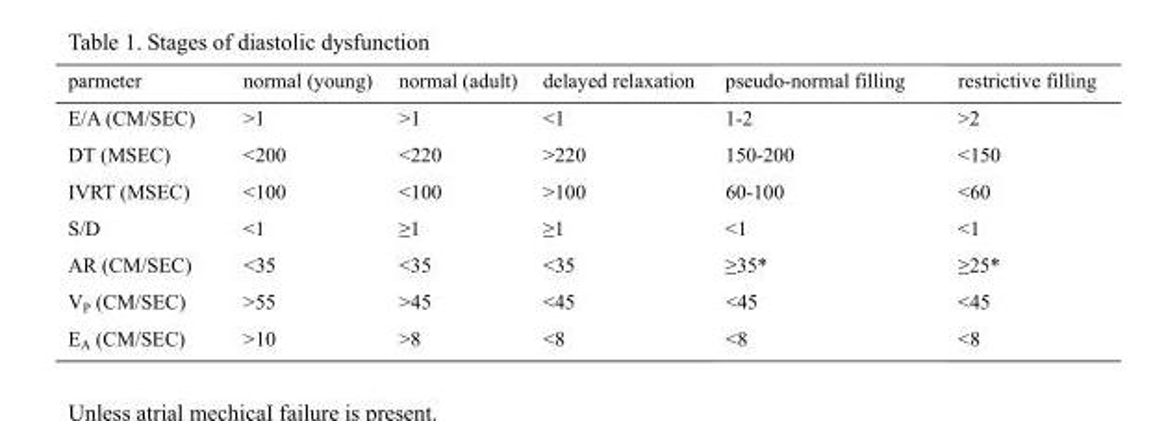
<table><thead><tr><td>parmeter</td><td>normal (young)</td><td>normal (adult)</td><td>delayed relaxation</td><td>pseudo-normal filling</td><td>restrictive filling</td></tr></thead><tbody><tr><td>E/A (CM/SEC)</td><td>&gt;1</td><td>&gt;1</td><td>&lt;1</td><td>1-2</td><td>&gt;2</td></tr><tr><td>DT (MSEC)</td><td>&lt;200</td><td>&lt;220</td><td>&gt;220</td><td>150-200</td><td>&lt;150</td></tr><tr><td>IVRT (MSEC)</td><td>&lt;100</td><td>&lt;100</td><td>&gt;100</td><td>60-100</td><td>&lt;60</td></tr><tr><td>S/D</td><td>&lt;1</td><td>≥1</td><td>≥1</td><td>&lt;1</td><td>&lt;1</td></tr><tr><td>AR (CM/SEC)</td><td>&lt;35</td><td>&lt;35</td><td>&lt;35</td><td>≥35*</td><td>≥25*</td></tr><tr><td>V<sub>P</sub> (CM/SEC)</td><td>&gt;55</td><td>&gt;45</td><td>&lt;45</td><td>&lt;45</td><td>&lt;45</td></tr><tr><td>E<sub>A</sub> (CM/SEC)</td><td>&gt;10</td><td>&gt;8</td><td>&lt;8</td><td>&lt;8</td><td>&lt;8</td></tr></tbody></table>